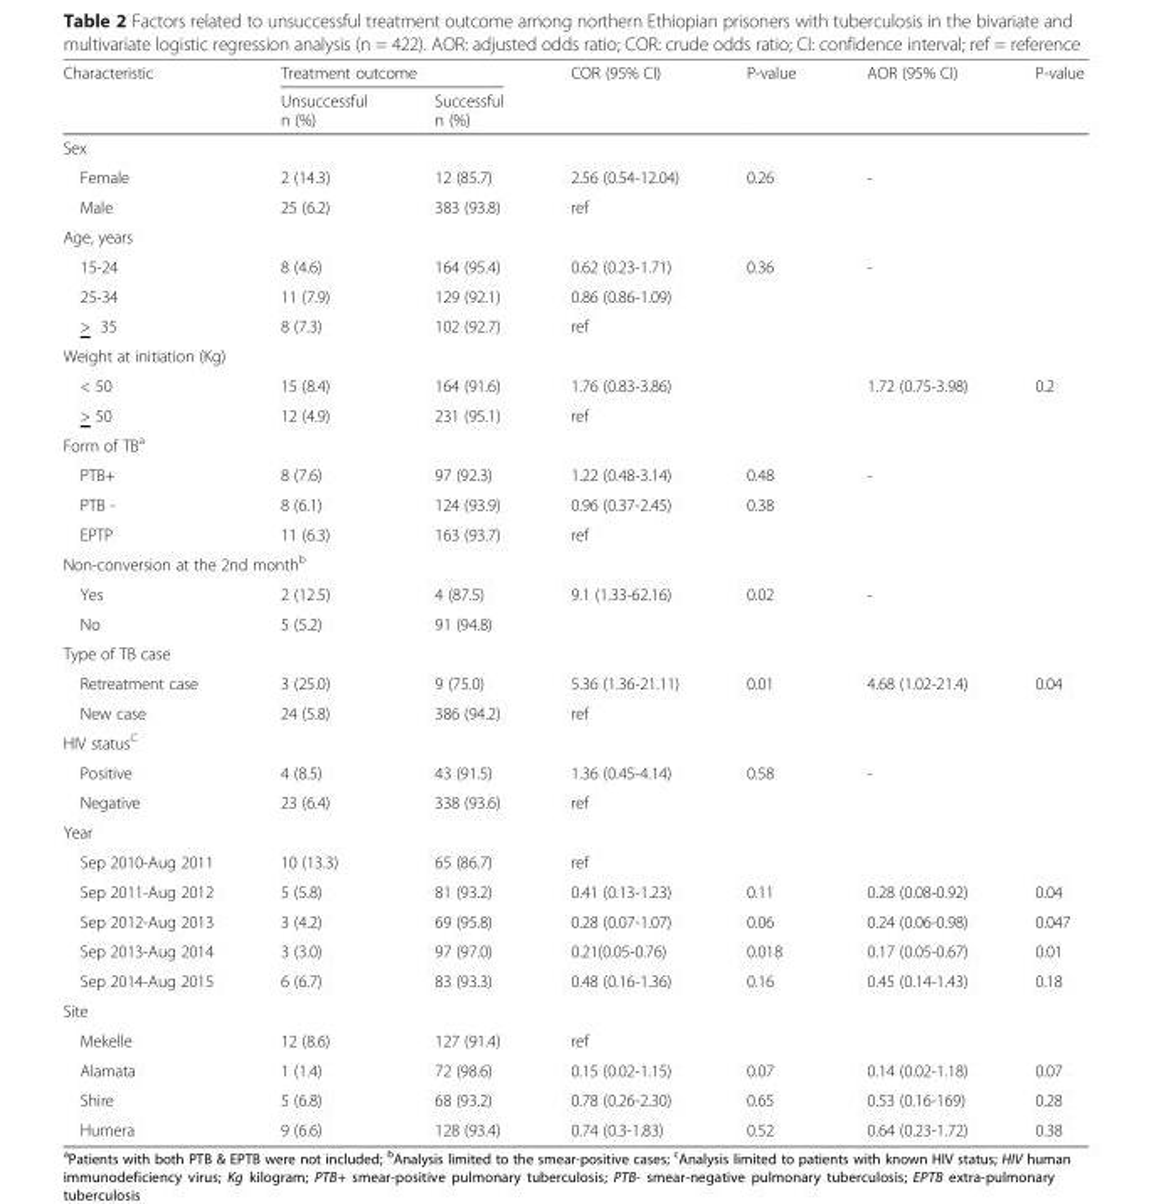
<table><thead><tr><td rowspan="2">Characteristic</td><td colspan="2">Treatment outcome</td><td rowspan="2">COR (95% CI)</td><td rowspan="2">P-value</td><td rowspan="2">AOR (95% CI)</td><td rowspan="2">P-value</td></tr><tr><td>Unsuccessful n (%)</td><td>Successful n (%)</td></tr></thead><tbody><tr><td colspan="7">Sex</td></tr><tr><td>Female</td><td>2 (14.3)</td><td>12 (85.7)</td><td>2.56 (0.54-12.04)</td><td>0.26</td><td>-</td><td></td></tr><tr><td>Male</td><td>25 (6.2)</td><td>383 (93.8)</td><td>ref</td><td></td><td></td><td></td></tr><tr><td colspan="7">Age, years</td></tr><tr><td>15-24</td><td>8 (4.6)</td><td>164 (95.4)</td><td>0.62 (0.23-1.71)</td><td>0.36</td><td>-</td><td></td></tr><tr><td>25-34</td><td>11 (7.9)</td><td>129 (92.1)</td><td>0.86 (0.86-1.09)</td><td></td><td></td><td></td></tr><tr><td>&gt; 35</td><td>8 (7.3)</td><td>102 (92.7)</td><td>ref</td><td></td><td></td><td></td></tr><tr><td colspan="7">Weight at initiation (Kg)</td></tr><tr><td>&lt; 50</td><td>15 (8.4)</td><td>164 (91.6)</td><td>1.76 (0.83-3.86)</td><td></td><td>1.72 (0.75-3.98)</td><td>0.2</td></tr><tr><td>&gt; 50</td><td>12 (4.9)</td><td>231 (95.1)</td><td>ref</td><td></td><td></td><td></td></tr><tr><td colspan="7">Form of TB<sup>a</sup></td></tr><tr><td>PTB+</td><td>8 (7.6)</td><td>97 (92.3)</td><td>1.22 (0.48-3.14)</td><td>0.48</td><td>-</td><td></td></tr><tr><td>PTB -</td><td>8 (6.1)</td><td>124 (93.9)</td><td>0.96 (0.37-2.45)</td><td>0.38</td><td></td><td></td></tr><tr><td>EPTP</td><td>11 (6.3)</td><td>163 (93.7)</td><td>ref</td><td></td><td></td><td></td></tr><tr><td colspan="7">Non-conversion at the 2nd month<sup>b</sup></td></tr><tr><td>Yes</td><td>2 (12.5)</td><td>4 (87.5)</td><td>9.1 (1.33-62.16)</td><td>0.02</td><td>-</td><td></td></tr><tr><td>No</td><td>5 (5.2)</td><td>91 (94.8)</td><td></td><td></td><td></td><td></td></tr><tr><td colspan="7">Type of TB case</td></tr><tr><td>Retreatment case</td><td>3 (25.0)</td><td>9 (75.0)</td><td>5.36 (1.36-21.11)</td><td>0.01</td><td>4.68 (1.02-21.4)</td><td>0.04</td></tr><tr><td>New case</td><td>24 (5.8)</td><td>386 (94.2)</td><td>ref</td><td></td><td></td><td></td></tr><tr><td colspan="7">HIV status<sup>C</sup></td></tr><tr><td>Positive</td><td>4 (8.5)</td><td>43 (91.5)</td><td>1.36 (0.45-4.14)</td><td>0.58</td><td>-</td><td></td></tr><tr><td>Negative</td><td>23 (6.4)</td><td>338 (93.6)</td><td>ref</td><td></td><td></td><td></td></tr><tr><td colspan="7">Year</td></tr><tr><td>Sep 2010-Aug 2011</td><td>10 (13.3)</td><td>65 (86.7)</td><td>ref</td><td></td><td></td><td></td></tr><tr><td>Sep 2011-Aug 2012</td><td>5 (5.8)</td><td>81 (93.2)</td><td>0.41 (0.13-1.23)</td><td>0.11</td><td>0.28 (0.08-0.92)</td><td>0.04</td></tr><tr><td>Sep 2012-Aug 2013</td><td>3 (4.2)</td><td>69 (95.8)</td><td>0.28 (0.07-1.07)</td><td>0.06</td><td>0.24 (0.06-0.98)</td><td>0.047</td></tr><tr><td>Sep 2013-Aug 2014</td><td>3 (3.0)</td><td>97 (97.0)</td><td>0.21(0.05-0.76)</td><td>0.018</td><td>0.17 (0.05-0.67)</td><td>0.01</td></tr><tr><td>Sep 2014-Aug 2015</td><td>6 (6.7)</td><td>83 (93.3)</td><td>0.48 (0.16-1.36)</td><td>0.16</td><td>0.45 (0.14-1.43)</td><td>0.18</td></tr><tr><td colspan="7">Site</td></tr><tr><td>Mekelle</td><td>12 (8.6)</td><td>127 (91.4)</td><td>ref</td><td></td><td></td><td></td></tr><tr><td>Alamata</td><td>1 (1.4)</td><td>72 (98.6)</td><td>0.15 (0.02-1.15)</td><td>0.07</td><td>0.14 (0.02-1.18)</td><td>0.07</td></tr><tr><td>Shire</td><td>5 (6.8)</td><td>68 (93.2)</td><td>0.78 (0.26-2.30)</td><td>0.65</td><td>0.53 (0.16-169)</td><td>0.28</td></tr><tr><td>Humera</td><td>9 (6.6)</td><td>128 (93.4)</td><td>0.74 (0.3-1.83)</td><td>0.52</td><td>0.64 (0.23-1.72)</td><td>0.38</td></tr></tbody></table>